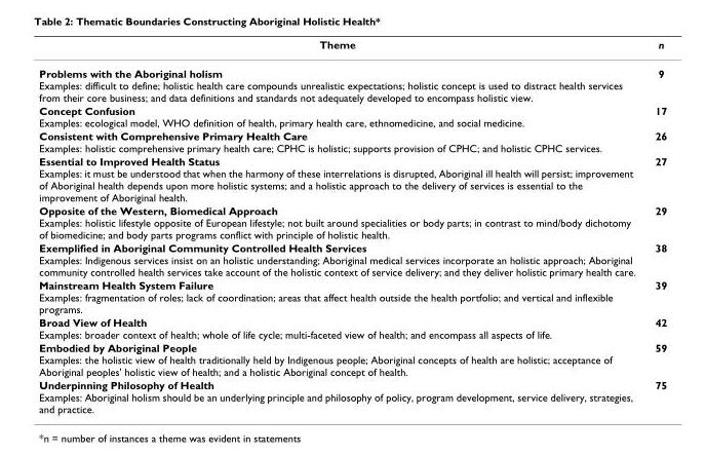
<table><thead><tr><td>Theme</td><td>n</td></tr></thead><tbody><tr><td>Problems with the Aboriginal holism Examples: difficult to define; holistic health care compounds unrealistic expectations; holistic concept is used to distract health services from their core business; and data definitions and standards not adequately developed to encompass holistic view.</td><td>9</td></tr><tr><td>Concept Confusion Examples: ecological model, WHO definition of health, primary health care, ethnomedicine, and social medicine.</td><td>17</td></tr><tr><td>Consistent with Comprehensive Primary Health Care Examples: holistic comprehensive primary health care; CPHC is holistic; supports provision of CPHC; and holistic CPHC services.</td><td>26</td></tr><tr><td>Essential to Improved Health Status Examples: it must be understood that when the harmony of these interrelations is disrupted, Aboriginal ill health will persist; improvement of Aboriginal health depends upon more holistic systems; and a holistic approach to the delivery of services is essential to the improvement of Aboriginal health.</td><td>27</td></tr><tr><td>Opposite of the Western, Biomedical Approach Examples: holistic lifestyle opposite of European lifestyle; not built around specialities or body parts; in contrast to mind/body dichotomy of biomedicine; and body parts programs conflict with principle of holistic health.</td><td>29</td></tr><tr><td>Exemplified in Aboriginal Community Controlled Health Services Examples: Indigenous services insist on an holistic understanding; Aboriginal medical services incorporate an holistic approach; Aboriginal community controlled health services take account of the holistic context of service delivery; and they deliver holistic primary health care.</td><td>38</td></tr><tr><td>Mainstream Health System Failure Examples: fragmentation of roles; lack of coordination; areas that affect health outside the health portfolio; and vertical and inflexible programs.</td><td>39</td></tr><tr><td>Broad View of Health Examples: broader context of health; whole of life cycle; multi-faceted view of health; and encompass all aspects of life.</td><td>42</td></tr><tr><td>Embodied by Aboriginal People Examples: the holistic view of health traditionally held by Indigenous people; Aboriginal concepts of health are holistic; acceptance of Aboriginal peoples&#x27; holistic view of health; and a holistic Aboriginal concept of health.</td><td>59</td></tr><tr><td>Underpinning Philosophy of Health Examples: Aboriginal holism should be an underlying principle and philosophy of policy, program development, service delivery, strategies, and practice.</td><td>75</td></tr></tbody></table>